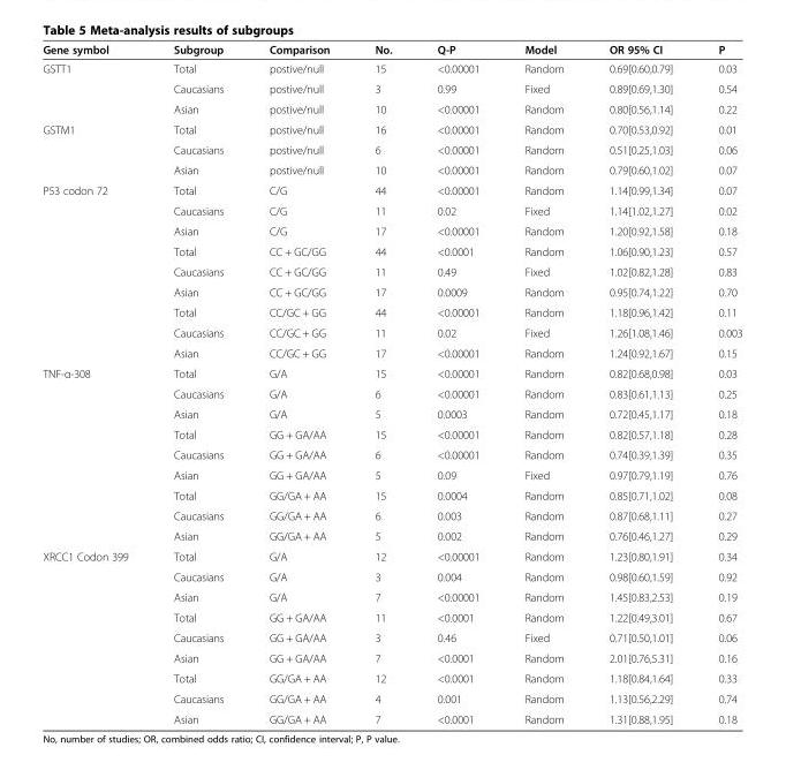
<table><thead><tr><td>Gene symbol</td><td>Subgroup</td><td>Comparison</td><td>No.</td><td>Q-P</td><td>Model</td><td>OR 95% CI</td><td>P</td></tr></thead><tbody><tr><td rowspan="3">GSTT1</td><td>Total</td><td>postive/null</td><td>15</td><td>&lt;0.00001</td><td>Random</td><td>0.69[0.60,0.79]</td><td>0.03</td></tr><tr><td>Caucasians</td><td>postive/null</td><td>3</td><td>0.99</td><td>Fixed</td><td>0.89[0.69,1.30]</td><td>0.54</td></tr><tr><td>Asian</td><td>postive/null</td><td>10</td><td>&lt;0.00001</td><td>Random</td><td>0.80[0.56,1.14]</td><td>0.22</td></tr><tr><td rowspan="3">GSTM1</td><td>Total</td><td>postive/null</td><td>16</td><td>&lt;0.00001</td><td>Random</td><td>0.70[0.53,0.92]</td><td>0.01</td></tr><tr><td>Caucasians</td><td>postive/null</td><td>6</td><td>&lt;0.00001</td><td>Random</td><td>0.51[0.25,1.03]</td><td>0.06</td></tr><tr><td>Asian</td><td>postive/null</td><td>10</td><td>&lt;0.00001</td><td>Random</td><td>0.79[0.60,1.02]</td><td>0.07</td></tr><tr><td rowspan="9">P53 codon 72</td><td>Total</td><td>C/G</td><td>44</td><td>&lt;0.00001</td><td>Random</td><td>1.14[0.99,1.34]</td><td>0.07</td></tr><tr><td>Caucasians</td><td>C/G</td><td>11</td><td>0.02</td><td>Fixed</td><td>1.14[1.02,1.27]</td><td>0.02</td></tr><tr><td>Asian</td><td>C/G</td><td>17</td><td>&lt;0.00001</td><td>Random</td><td>1.20[0.92,1.58]</td><td>0.18</td></tr><tr><td>Total</td><td>CC + GC/GG</td><td>44</td><td>&lt;0.0001</td><td>Random</td><td>1.06[0.90,1.23]</td><td>0.57</td></tr><tr><td>Caucasians</td><td>CC + GC/GG</td><td>11</td><td>0.49</td><td>Fixed</td><td>1.02[0.82,1.28]</td><td>0.83</td></tr><tr><td>Asian</td><td>CC + GC/GG</td><td>17</td><td>0.0009</td><td>Random</td><td>0.95[0.74,1.22]</td><td>0.70</td></tr><tr><td>Total</td><td>CC/GC + GG</td><td>44</td><td>&lt;0.00001</td><td>Random</td><td>1.18[0.96,1.42]</td><td>0.11</td></tr><tr><td>Caucasians</td><td>CC/GC + GG</td><td>11</td><td>0.02</td><td>Fixed</td><td>1.26[1.08,1.46]</td><td>0.003</td></tr><tr><td>Asian</td><td>CC/GC + GG</td><td>17</td><td>&lt;0.00001</td><td>Random</td><td>1.24[0.92,1.67]</td><td>0.15</td></tr><tr><td rowspan="9">TNF-α-308</td><td>Total</td><td>G/A</td><td>15</td><td>&lt;0.00001</td><td>Random</td><td>0.82[0.68,0.98]</td><td>0.03</td></tr><tr><td>Caucasians</td><td>G/A</td><td>6</td><td>&lt;0.00001</td><td>Random</td><td>0.83[0.61,1.13]</td><td>0.25</td></tr><tr><td>Asian</td><td>G/A</td><td>5</td><td>0.0003</td><td>Random</td><td>0.72[0.45,1.17]</td><td>0.18</td></tr><tr><td>Total</td><td>GG + GA/AA</td><td>15</td><td>&lt;0.00001</td><td>Random</td><td>0.82[0.57,1.18]</td><td>0.28</td></tr><tr><td>Caucasians</td><td>GG + GA/AA</td><td>6</td><td>&lt;0.00001</td><td>Random</td><td>0.74[0.39,1.39]</td><td>0.35</td></tr><tr><td>Asian</td><td>GG + GA/AA</td><td>5</td><td>0.09</td><td>Fixed</td><td>0.97[0.79,1.19]</td><td>0.76</td></tr><tr><td>Total</td><td>GG/GA + AA</td><td>15</td><td>0.0004</td><td>Random</td><td>0.85[0.71,1.02]</td><td>0.08</td></tr><tr><td>Caucasians</td><td>GG/GA + AA</td><td>6</td><td>0.003</td><td>Random</td><td>0.87[0.68,1.11]</td><td>0.27</td></tr><tr><td>Asian</td><td>GG/GA + AA</td><td>5</td><td>0.002</td><td>Random</td><td>0.76[0.46,1.27]</td><td>0.29</td></tr><tr><td rowspan="9">XRCC1 Codon 399</td><td>Total</td><td>G/A</td><td>12</td><td>&lt;0.00001</td><td>Random</td><td>1.23[0.80,1.91]</td><td>0.34</td></tr><tr><td>Caucasians</td><td>G/A</td><td>3</td><td>0.004</td><td>Random</td><td>0.98[0.60,1.59]</td><td>0.92</td></tr><tr><td>Asian</td><td>G/A</td><td>7</td><td>&lt;0.00001</td><td>Random</td><td>1.45[0.83,2.53]</td><td>0.19</td></tr><tr><td>Total</td><td>GG + GA/AA</td><td>11</td><td>&lt;0.0001</td><td>Random</td><td>1.22[0.49,3.01]</td><td>0.67</td></tr><tr><td>Caucasians</td><td>GG + GA/AA</td><td>3</td><td>0.46</td><td>Fixed</td><td>0.71[0.50,1.01]</td><td>0.06</td></tr><tr><td>Asian</td><td>GG + GA/AA</td><td>7</td><td>&lt;0.0001</td><td>Random</td><td>2.01[0.76,5.31]</td><td>0.16</td></tr><tr><td>Total</td><td>GG/GA + AA</td><td>12</td><td>&lt;0.0001</td><td>Random</td><td>1.18[0.84,1.64]</td><td>0.33</td></tr><tr><td>Caucasians</td><td>GG/GA + AA</td><td>4</td><td>0.001</td><td>Random</td><td>1.13[0.56,2.29]</td><td>0.74</td></tr><tr><td>Asian</td><td>GG/GA + AA</td><td>7</td><td>&lt;0.0001</td><td>Random</td><td>1.31[0.88,1.95]</td><td>0.18</td></tr></tbody></table>